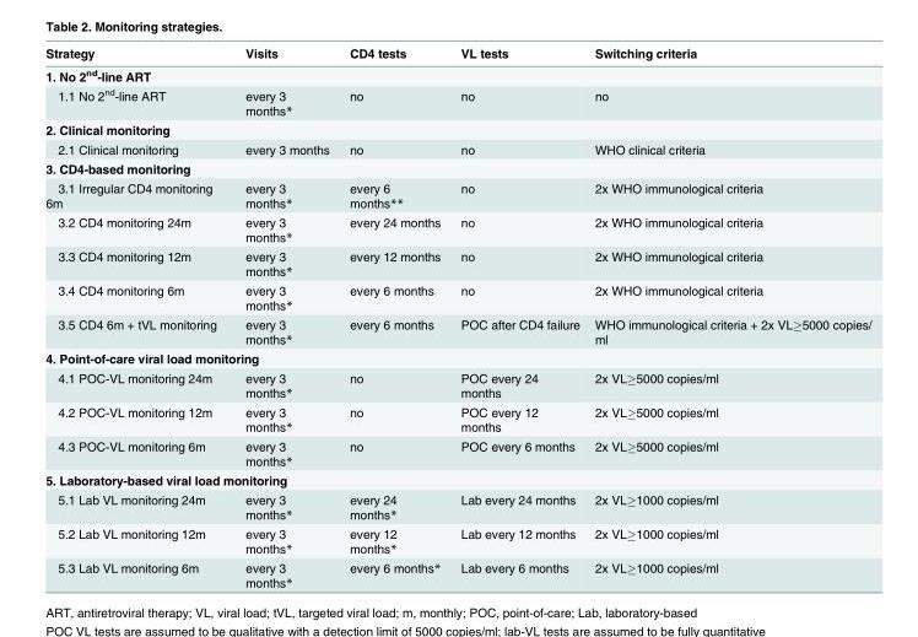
<table><thead><tr><td>Strategy</td><td>Visits</td><td>CD4 tests</td><td>VL tests</td><td>Switching criteria</td></tr></thead><tbody><tr><td colspan="5">1. No 2<sup>nd</sup>-line ART</td></tr><tr><td>1.1 No 2<sup>nd</sup>-line ART</td><td>every 3 months*</td><td>no</td><td>no</td><td>no</td></tr><tr><td colspan="5">2. Clinical monitoring</td></tr><tr><td>2.1 Clinical monitoring</td><td>every 3 months</td><td>no</td><td>no</td><td>WHO clinical criteria</td></tr><tr><td colspan="5">3. CD4-based monitoring</td></tr><tr><td>3.1 Irregular CD4 monitoring 6m</td><td>every 3 months*</td><td>every 6 months**</td><td>no</td><td>2x WHO immunological criteria</td></tr><tr><td>3.2 CD4 monitoring 24m</td><td>every 3 months*</td><td>every 24 months</td><td>no</td><td>2x WHO immunological criteria</td></tr><tr><td>3.3 CD4 monitoring 12m</td><td>every 3 months*</td><td>every 12 months</td><td>no</td><td>2x WHO immunological criteria</td></tr><tr><td>3.4 CD4 monitoring 6m</td><td>every 3 months*</td><td>every 6 months</td><td>no</td><td>2x WHO immunological criteria</td></tr><tr><td>3.5 CD4 6m + tVL monitoring</td><td>every 3 months*</td><td>every 6 months</td><td>POC after CD4 failure</td><td>WHO immunological criteria + 2x VL≥5000 copies/ ml</td></tr><tr><td colspan="5">4. Point-of-care viral load monitoring</td></tr><tr><td>4.1 POC-VL monitoring 24m</td><td>every 3 months*</td><td>no</td><td>POC every 24 months</td><td>2x VL≥5000 copies/ml</td></tr><tr><td>4.2 POC-VL monitoring 12m</td><td>every 3 months*</td><td>no</td><td>POC every 12 months</td><td>2x VL≥5000 copies/ml</td></tr><tr><td>4.3 POC-VL monitoring 6m</td><td>every 3 months*</td><td>no</td><td>POC every 6 months</td><td>2x VL≥5000 copies/ml</td></tr><tr><td colspan="5">5. Laboratory-based viral load monitoring</td></tr><tr><td>5.1 Lab VL monitoring 24m</td><td>every 3 months*</td><td>every 24 months*</td><td>Lab every 24 months</td><td>2x VL≥1000 copies/ml</td></tr><tr><td>5.2 Lab VL monitoring 12m</td><td>every 3 months*</td><td>every 12 months*</td><td>Lab every 12 months</td><td>2x VL≥1000 copies/ml</td></tr><tr><td>5.3 Lab VL monitoring 6m</td><td>every 3 months*</td><td>every 6 months*</td><td>Lab every 6 months</td><td>2x VL≥1000 copies/ml</td></tr></tbody></table>